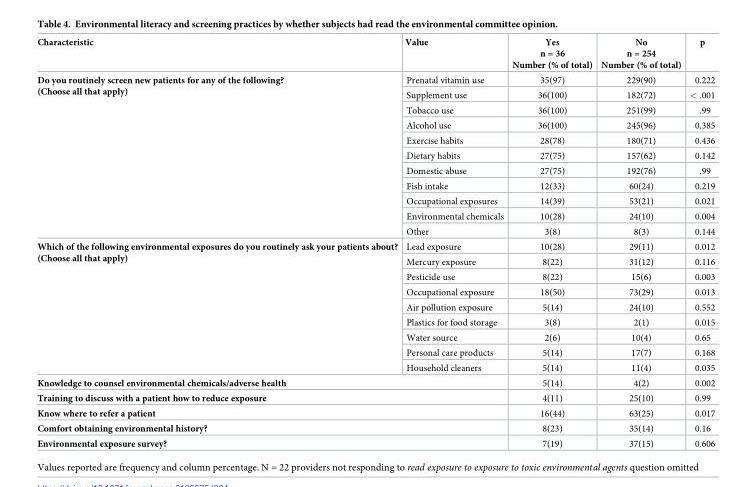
<table><thead><tr><td>Characteristic</td><td>Value</td><td>Yes n = 36 Number (% of total)</td><td>No n = 254 Number (% of total)</td><td>p</td></tr></thead><tbody><tr><td rowspan="11">Do you routinely screen new patients for any of the following? (Choose all that apply)</td><td>Prenatal vitamin use</td><td>35(97)</td><td>229(90)</td><td>0.222</td></tr><tr><td>Supplement use</td><td>36(100)</td><td>182(72)</td><td>&lt; .001</td></tr><tr><td>Tobacco use</td><td>36(100)</td><td>251(99)</td><td>.99</td></tr><tr><td>Alcohol use</td><td>36(100)</td><td>245(96)</td><td>0.385</td></tr><tr><td>Exercise habits</td><td>28(78)</td><td>180(71)</td><td>0.436</td></tr><tr><td>Dietary habits</td><td>27(75)</td><td>157(62)</td><td>0.142</td></tr><tr><td>Domestic abuse</td><td>27(75)</td><td>192(76)</td><td>.99</td></tr><tr><td>Fish intake</td><td>12(33)</td><td>60(24)</td><td>0.219</td></tr><tr><td>Occupational exposures</td><td>14(39)</td><td>53(21)</td><td>0.021</td></tr><tr><td>Environmental chemicals</td><td>10(28)</td><td>24(10)</td><td>0.004</td></tr><tr><td>Other</td><td>3(8)</td><td>8(3)</td><td>0.144</td></tr><tr><td rowspan="9">Which of the following environmental exposures do you routinely ask your patients about? (Choose all that apply)</td><td>Lead exposure</td><td>10(28)</td><td>29(11)</td><td>0.012</td></tr><tr><td>Mercury exposure</td><td>8(22)</td><td>31(12)</td><td>0.116</td></tr><tr><td>Pesticide use</td><td>8(22)</td><td>15(6)</td><td>0.003</td></tr><tr><td>Occupational exposure</td><td>18(50)</td><td>73(29)</td><td>0.013</td></tr><tr><td>Air pollution exposure</td><td>5(14)</td><td>24(10)</td><td>0.552</td></tr><tr><td>Plastics for food storage</td><td>3(8)</td><td>2(1)</td><td>0.015</td></tr><tr><td>Water source</td><td>2(6)</td><td>10(4)</td><td>0.65</td></tr><tr><td>Personal care products</td><td>5(14)</td><td>17(7)</td><td>0.168</td></tr><tr><td>Household cleaners</td><td>5(14)</td><td>11(4)</td><td>0.035</td></tr><tr><td colspan="2">Knowledge to counsel environmental chemicals/adverse health</td><td>5(14)</td><td>4(2)</td><td>0.002</td></tr><tr><td colspan="2">Training to discuss with a patient how to reduce exposure</td><td>4(11)</td><td>25(10)</td><td>0.99</td></tr><tr><td colspan="2">Know where to refer a patient</td><td>16(44)</td><td>63(25)</td><td>0.017</td></tr><tr><td colspan="2">Comfort obtaining environmental history?</td><td>8(23)</td><td>35(14)</td><td>0.16</td></tr><tr><td colspan="2">Environmental exposure survey?</td><td>7(19)</td><td>37(15)</td><td>0.606</td></tr></tbody></table>